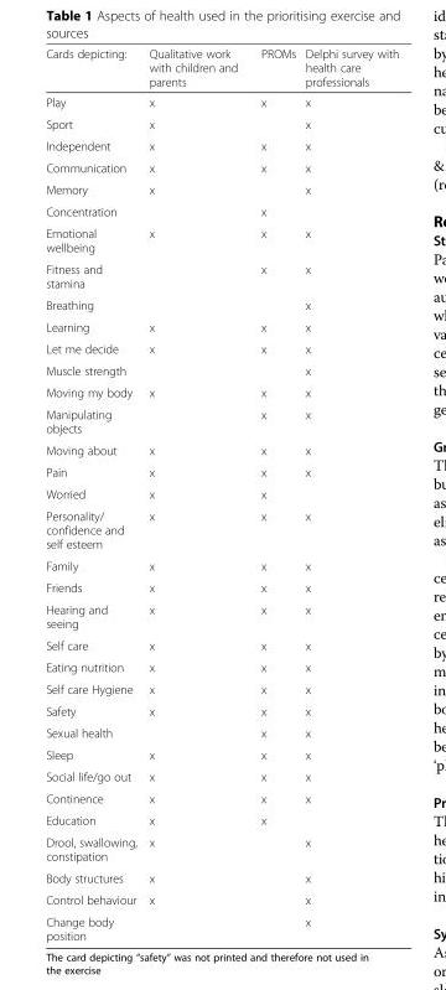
<table><thead><tr><td>Cards depicting:</td><td>Qualitative work with children and parents</td><td>PROMs</td><td>Delphi survey with health care professionals</td></tr></thead><tbody><tr><td>Play</td><td>x</td><td>x</td><td>x</td></tr><tr><td>Sport</td><td>x</td><td></td><td>x</td></tr><tr><td>Independent</td><td>x</td><td>x</td><td>x</td></tr><tr><td>Communication</td><td>x</td><td>x</td><td>x</td></tr><tr><td>Memory</td><td>x</td><td></td><td>x</td></tr><tr><td>Concentration</td><td></td><td>x</td><td></td></tr><tr><td>Emotional wellbeing</td><td>x</td><td>x</td><td>x</td></tr><tr><td>Fitness and stamina</td><td></td><td>x</td><td>x</td></tr><tr><td>Breathing</td><td></td><td></td><td>x</td></tr><tr><td>Learning</td><td>x</td><td>x</td><td>x</td></tr><tr><td>Let me decide</td><td>x</td><td>x</td><td>x</td></tr><tr><td>Muscle strength</td><td></td><td></td><td>x</td></tr><tr><td>Moving my body</td><td>x</td><td>x</td><td>x</td></tr><tr><td>Manipulating objects</td><td></td><td>x</td><td>x</td></tr><tr><td>Moving about</td><td>x</td><td>x</td><td>x</td></tr><tr><td>Pain</td><td>x</td><td>x</td><td>x</td></tr><tr><td>Worried</td><td>x</td><td>x</td><td></td></tr><tr><td>Personality/ confidence and self esteem</td><td>x</td><td>x</td><td>x</td></tr><tr><td>Family</td><td>x</td><td>x</td><td>x</td></tr><tr><td>Friends</td><td>x</td><td>x</td><td>x</td></tr><tr><td>Hearing and seeing</td><td>x</td><td>x</td><td>x</td></tr><tr><td>Self care</td><td>x</td><td>x</td><td>x</td></tr><tr><td>Eating nutrition</td><td>x</td><td>x</td><td>x</td></tr><tr><td>Self care Hygiene</td><td>x</td><td>x</td><td>x</td></tr><tr><td>Safety</td><td>x</td><td>x</td><td>x</td></tr><tr><td>Sexual health</td><td></td><td>x</td><td>x</td></tr><tr><td>Sleep</td><td>x</td><td>x</td><td>x</td></tr><tr><td>Social life/go out</td><td>x</td><td>x</td><td>x</td></tr><tr><td>Continence</td><td>x</td><td>x</td><td>x</td></tr><tr><td>Education</td><td>x</td><td>x</td><td></td></tr><tr><td>Drool, swallowing, constipation</td><td>x</td><td></td><td>x</td></tr><tr><td>Body structures</td><td>x</td><td></td><td>x</td></tr><tr><td>Control behaviour</td><td>x</td><td></td><td>x</td></tr><tr><td>Change body position</td><td></td><td></td><td>x</td></tr></tbody></table>